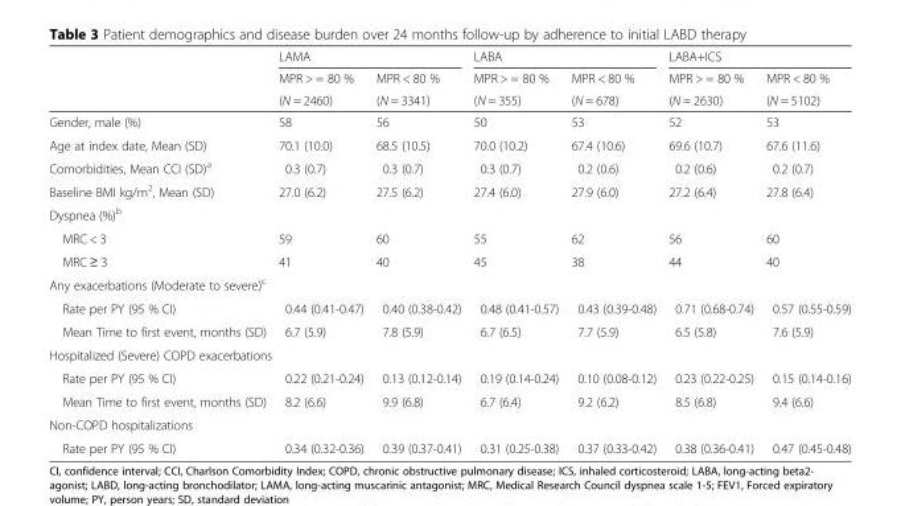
<table><thead><tr><td rowspan="3"></td><td colspan="2">LAMA</td><td colspan="2">LABA</td><td colspan="2">LABA+ICS</td></tr><tr><td rowspan="2">MPR &gt; = 80 % (N = 2460)</td><td rowspan="2">MPR &lt; 80 % (N = 3341)</td><td rowspan="2">MPR &gt; = 80 % (N = 355)</td><td rowspan="2">MPR &lt; 80 % (N = 678)</td><td rowspan="2">MPR &gt; = 80 % (N = 2630)</td><td rowspan="2">MPR &lt; 80 % (N = 5102)</td></tr><tr></tr></thead><tbody><tr><td>Gender, male (%)</td><td>58</td><td>56</td><td>50</td><td>53</td><td>52</td><td>53</td></tr><tr><td>Age at index date, Mean (SD)</td><td>70.1 (10.0)</td><td>68.5 (10.5)</td><td>70.0 (10.2)</td><td>67.4 (10.6)</td><td>69.6 (10.7)</td><td>67.6 (11.6)</td></tr><tr><td>Comorbidities, Mean CCI (SD)<sup>a</sup></td><td>0.3 (0.7)</td><td>0.3 (0.7)</td><td>0.3 (0.7)</td><td>0.2 (0.6)</td><td>0.2 (0.6)</td><td>0.2 (0.7)</td></tr><tr><td>Baseline BMI kg/m<sup>2</sup>, Mean (SD)</td><td>27.0 (6.2)</td><td>27.5 (6.2)</td><td>27.4 (6.0)</td><td>27.9 (6.0)</td><td>27.2 (6.4)</td><td>27.8 (6.4)</td></tr><tr><td colspan="7">Dyspnea (%)<sup>b</sup></td></tr><tr><td>MRC &lt; 3</td><td>59</td><td>60</td><td>55</td><td>62</td><td>56</td><td>60</td></tr><tr><td>MRC ≥ 3</td><td>41</td><td>40</td><td>45</td><td>38</td><td>44</td><td>40</td></tr><tr><td colspan="7">Any exacerbations (Moderate to severe)<sup>c</sup></td></tr><tr><td>Rate per PY (95 % CI)</td><td>0.44 (0.41-0.47)</td><td>0.40 (0.38-0.42)</td><td>0.48 (0.41-0.57)</td><td>0.43 (0.39-0.48)</td><td>0.71 (0.68-0.74)</td><td>0.57 (0.55-0.59)</td></tr><tr><td>Mean Time to first event, months (SD)</td><td>6.7 (5.9)</td><td>7.8 (5.9)</td><td>6.7 (6.5)</td><td>7.7 (5.9)</td><td>6.5 (5.8)</td><td>7.6 (5.9)</td></tr><tr><td colspan="7">Hospitalized (Severe) COPD exacerbations</td></tr><tr><td>Rate per PY (95 % CI)</td><td>0.22 (0.21-0.24)</td><td>0.13 (0.12-0.14)</td><td>0.19 (0.14-0.24)</td><td>0.10 (0.08-0.12)</td><td>0.23 (0.22-0.25)</td><td>0.15 (0.14-0.16)</td></tr><tr><td>Mean Time to first event, months (SD)</td><td>8.2 (6.6)</td><td>9.9 (6.8)</td><td>6.7 (6.4)</td><td>9.2 (6.2)</td><td>8.5 (6.8)</td><td>9.4 (6.6)</td></tr><tr><td colspan="7">Non-COPD hospitalizations</td></tr><tr><td>Rate per PY (95 % CI)</td><td>0.34 (0.32-0.36)</td><td>0.39 (0.37-0.41)</td><td>0.31 (0.25-0.38)</td><td>0.37 (0.33-0.42)</td><td>0.38 (0.36-0.41)</td><td>0.47 (0.45-0.48)</td></tr></tbody></table>